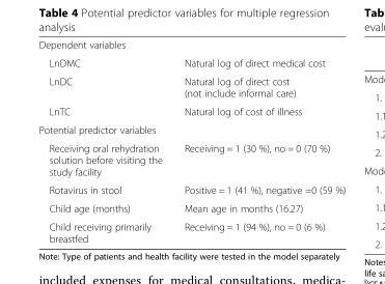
<table><tbody><tr><td colspan="2">Dependent variables</td></tr><tr><td>LnDMC</td><td>Natural log of direct medical cost</td></tr><tr><td>LnDC</td><td>Natural log of direct cost (not include informal care)</td></tr><tr><td>LnTC</td><td>Natural log of cost of illness</td></tr><tr><td colspan="2">Potential predictor variables</td></tr><tr><td>Receiving oral rehydration solution before visiting the study facility</td><td>Receiving = 1 (30 %), no = 0 (70 %)</td></tr><tr><td>Rotavirus in stool</td><td>Positive = 1 (41 %), negative =0 (59 %)</td></tr><tr><td>Child age (months)</td><td>Mean age in months (16.27)</td></tr><tr><td>Child receiving primarily breastfed</td><td>Receiving = 1 (94 %), no = 0 (6 %)</td></tr></tbody></table>